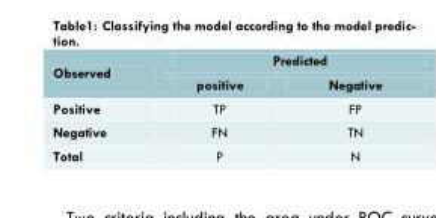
<table><thead><tr><td rowspan="2">Observed</td><td colspan="2">Predicted</td></tr><tr><td>positive</td><td>Negative</td></tr></thead><tbody><tr><td>Positive</td><td>TP</td><td>FP</td></tr><tr><td>Negative</td><td>FN</td><td>TN</td></tr><tr><td>Total</td><td>P</td><td>N</td></tr></tbody></table>